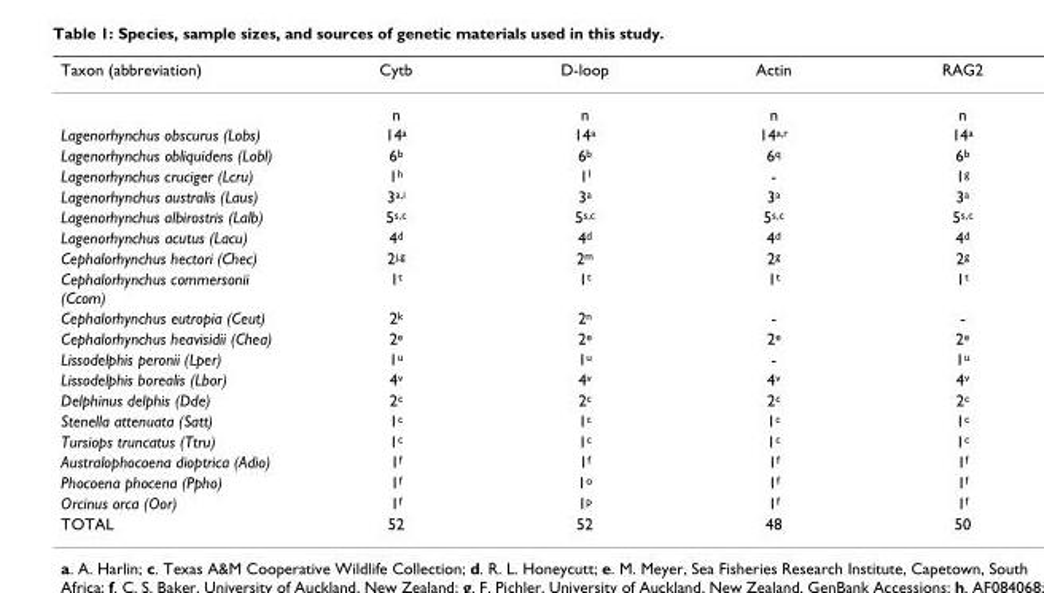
<table><thead><tr><td>Taxon (abbreviation)</td><td>Cytb</td><td>D-loop</td><td>Actin</td><td>RAG2</td></tr></thead><tbody><tr><td></td><td>n</td><td>n</td><td>n</td><td>n</td></tr><tr><td>Lagenorhynchus obscurus (Lobs)</td><td>14<sup>a</sup></td><td>14<sup>a</sup></td><td>14<sup>a,r</sup></td><td>14<sup>a</sup></td></tr><tr><td>Lagenorhynchus obliquidens (Lobl)</td><td>6<sup>b</sup></td><td>6<sup>b</sup></td><td>6<sup>q</sup></td><td>6<sup>b</sup></td></tr><tr><td>Lagenorhynchus cruciger (Lcru)</td><td>1<sup>h</sup></td><td>1<sup>l</sup></td><td>-</td><td>1<sup>g</sup></td></tr><tr><td>Lagenorhynchus australis (Laus)</td><td>3<sup>a,i</sup></td><td>3<sup>a</sup></td><td>3<sup>a</sup></td><td>3<sup>a</sup></td></tr><tr><td>Lagenorhynchus albirostris (Lalb)</td><td>5<sup>s,c</sup></td><td>5<sup>s,c</sup></td><td>5<sup>s,c</sup></td><td>5<sup>s,c</sup></td></tr><tr><td>Lagenorhynchus acutus (Lacu)</td><td>4<sup>d</sup></td><td>4<sup>d</sup></td><td>4<sup>d</sup></td><td>4<sup>d</sup></td></tr><tr><td>Cephalorhynchus hectori (Chec)</td><td>2<sup>j,g</sup></td><td>2<sup>m</sup></td><td>2<sup>g</sup></td><td>2<sup>g</sup></td></tr><tr><td>Cephalorhynchus commersonii (Ccom)</td><td>1<sup>t</sup></td><td>1<sup>t</sup></td><td>1<sup>t</sup></td><td>1<sup>t</sup></td></tr><tr><td>Cephalorhynchus eutropia (Ceut)</td><td>2<sup>k</sup></td><td>2<sup>n</sup></td><td>-</td><td>-</td></tr><tr><td>Cephalorhynchus heavisidii (Chea)</td><td>2<sup>e</sup></td><td>2<sup>e</sup></td><td>2<sup>e</sup></td><td>2<sup>e</sup></td></tr><tr><td>Lissodelphis peronii (Lper)</td><td>1<sup>u</sup></td><td>1<sup>u</sup></td><td>-</td><td>1<sup>u</sup></td></tr><tr><td>Lissodelphis borealis (Lbor)</td><td>4<sup>v</sup></td><td>4<sup>v</sup></td><td>4<sup>v</sup></td><td>4<sup>v</sup></td></tr><tr><td>Delphinus delphis (Dde)</td><td>2<sup>c</sup></td><td>2<sup>c</sup></td><td>2<sup>c</sup></td><td>2<sup>c</sup></td></tr><tr><td>Stenella attenuata (Satt)</td><td>1<sup>c</sup></td><td>1<sup>c</sup></td><td>1<sup>c</sup></td><td>1<sup>c</sup></td></tr><tr><td>Tursiops truncatus (Ttru)</td><td>1<sup>c</sup></td><td>1<sup>c</sup></td><td>1<sup>c</sup></td><td>1<sup>c</sup></td></tr><tr><td>Australophocoena dioptrica (Adio)</td><td>1<sup>f</sup></td><td>1<sup>f</sup></td><td>1<sup>f</sup></td><td>1<sup>f</sup></td></tr><tr><td>Phocoena phocena (Ppho)</td><td>1<sup>f</sup></td><td>1<sup>o</sup></td><td>1<sup>f</sup></td><td>1<sup>f</sup></td></tr><tr><td>Orcinus orca (Oor)</td><td>1<sup>f</sup></td><td>1<sup>p</sup></td><td>1<sup>f</sup></td><td>1<sup>f</sup></td></tr><tr><td>TOTAL</td><td>52</td><td>52</td><td>48</td><td>50</td></tr></tbody></table>